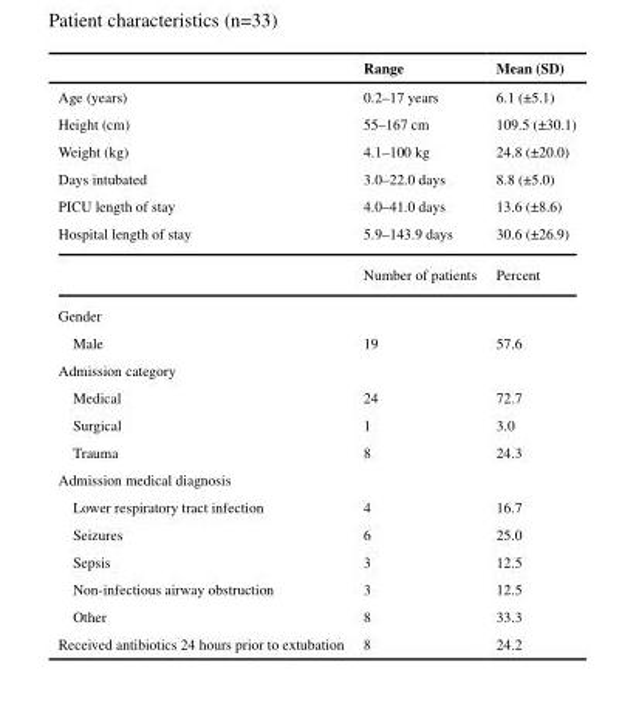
<table><thead><tr><td></td><td>Range</td><td>Mean (SD)</td></tr></thead><tbody><tr><td>Age (years)</td><td>0.2–17 years</td><td>6.1 (±5.1)</td></tr><tr><td>Height (cm)</td><td>55–167 cm</td><td>109.5 (±30.1)</td></tr><tr><td>Weight (kg)</td><td>4.1–100 kg</td><td>24.8 (±20.0)</td></tr><tr><td>Days intubated</td><td>3.0–22.0 days</td><td>8.8 (±5.0)</td></tr><tr><td>PICU length of stay</td><td>4.0–41.0 days</td><td>13.6 (±8.6)</td></tr><tr><td rowspan="2">Hospital length of stay</td><td>5.9–143.9 days</td><td>30.6 (±26.9)</td></tr><tr><td>Number of patients</td><td>Percent</td></tr><tr><td colspan="3">Gender</td></tr><tr><td>Male</td><td>19</td><td>57.6</td></tr><tr><td colspan="3">Admission category</td></tr><tr><td>Medical</td><td>24</td><td>72.7</td></tr><tr><td>Surgical</td><td>1</td><td>3.0</td></tr><tr><td>Trauma</td><td>8</td><td>24.3</td></tr><tr><td colspan="3">Admission medical diagnosis</td></tr><tr><td>Lower respiratory tract infection</td><td>4</td><td>16.7</td></tr><tr><td>Seizures</td><td>6</td><td>25.0</td></tr><tr><td>Sepsis</td><td>3</td><td>12.5</td></tr><tr><td>Non-infectious airway obstruction</td><td>3</td><td>12.5</td></tr><tr><td>Other</td><td>8</td><td>33.3</td></tr><tr><td>Received antibiotics 24 hours prior to extubation</td><td>8</td><td>24.2</td></tr></tbody></table>